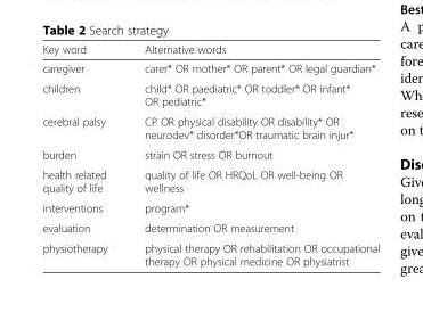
<table><thead><tr><td>Key word</td><td>Alternative words</td></tr></thead><tbody><tr><td>caregiver</td><td>carer* OR mother* OR parent* OR legal guardian*</td></tr><tr><td>children</td><td>child* OR paediatric* OR toddler* OR infant* OR pediatric*</td></tr><tr><td>cerebral palsy</td><td>CP OR physical disability OR disability* OR neurodev* disorder*OR traumatic brain injur*</td></tr><tr><td>burden</td><td>strain OR stress OR burnout</td></tr><tr><td>health related quality of life</td><td>quality of life OR HRQoL OR well-being OR wellness</td></tr><tr><td>interventions</td><td>program*</td></tr><tr><td>evaluation</td><td>determination OR measurement</td></tr><tr><td>physiotherapy</td><td>physical therapy OR rehabilitation OR occupational therapy OR physical medicine OR physiatrist</td></tr></tbody></table>